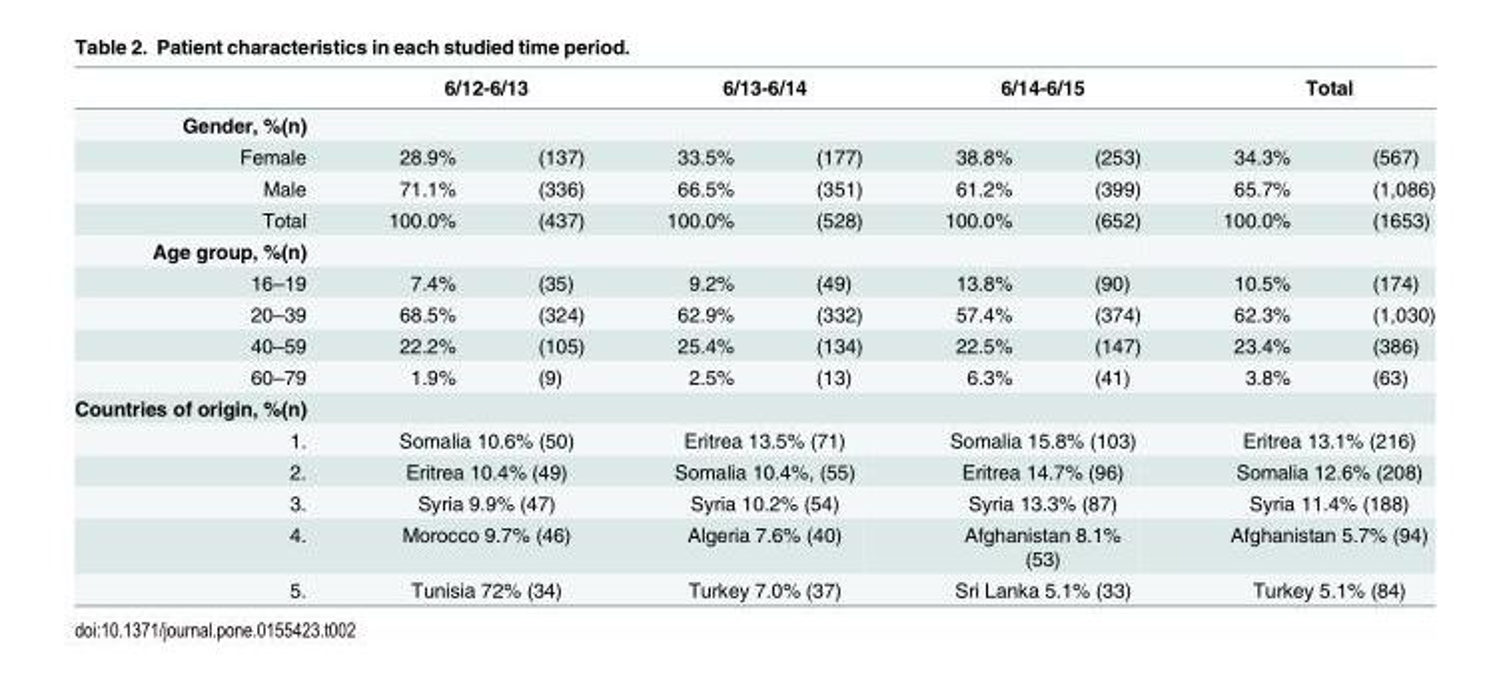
<table><thead><tr><td rowspan="2">Gender, %(n)</td><td colspan="2">6/12-6/13</td><td colspan="2">6/13-6/14</td><td colspan="2">6/14-6/15</td><td colspan="2">Total</td></tr><tr><td></td><td></td><td></td><td></td><td></td><td></td><td></td><td></td></tr></thead><tbody><tr><td>Female</td><td>28.9%</td><td>(137)</td><td>33.5%</td><td>(177)</td><td>38.8%</td><td>(253)</td><td>34.3%</td><td>(567)</td></tr><tr><td>Male</td><td>71.1%</td><td>(336)</td><td>66.5%</td><td>(351)</td><td>61.2%</td><td>(399)</td><td>65.7%</td><td>(1,086)</td></tr><tr><td>Total</td><td>100.0%</td><td>(437)</td><td>100.0%</td><td>(528)</td><td>100.0%</td><td>(652)</td><td>100.0%</td><td>(1653)</td></tr><tr><td colspan="9">Age group, %(n)</td></tr><tr><td>16–19</td><td>7.4%</td><td>(35)</td><td>9.2%</td><td>(49)</td><td>13.8%</td><td>(90)</td><td>10.5%</td><td>(174)</td></tr><tr><td>20–39</td><td>68.5%</td><td>(324)</td><td>62.9%</td><td>(332)</td><td>57.4%</td><td>(374)</td><td>62.3%</td><td>(1,030)</td></tr><tr><td>40–59</td><td>22.2%</td><td>(105)</td><td>25.4%</td><td>(134)</td><td>22.5%</td><td>(147)</td><td>23.4%</td><td>(386)</td></tr><tr><td>60–79</td><td>1.9%</td><td>(9)</td><td>2.5%</td><td>(13)</td><td>6.3%</td><td>(41)</td><td>3.8%</td><td>(63)</td></tr><tr><td colspan="9">Countries of origin, %(n)</td></tr><tr><td>1.</td><td colspan="2">Somalia 10.6% (50)</td><td colspan="2">Eritrea 13.5% (71)</td><td colspan="2">Somalia 15.8% (103)</td><td colspan="2">Eritrea 13.1% (216)</td></tr><tr><td>2.</td><td colspan="2">Eritrea 10.4% (49)</td><td colspan="2">Somalia 10.4%, (55)</td><td colspan="2">Eritrea 14.7% (96)</td><td colspan="2">Somalia 12.6% (208)</td></tr><tr><td>3.</td><td colspan="2">Syria 9.9% (47)</td><td colspan="2">Syria 10.2% (54)</td><td colspan="2">Syria 13.3% (87)</td><td colspan="2">Syria 11.4% (188)</td></tr><tr><td>4.</td><td colspan="2">Morocco 9.7% (46)</td><td colspan="2">Algeria 7.6% (40)</td><td colspan="2">Afghanistan 8.1% (53)</td><td colspan="2">Afghanistan 5.7% (94)</td></tr><tr><td>5.</td><td colspan="2">Tunisia 72% (34)</td><td colspan="2">Turkey 7.0% (37)</td><td colspan="2">Sri Lanka 5.1% (33)</td><td colspan="2">Turkey 5.1% (84)</td></tr></tbody></table>